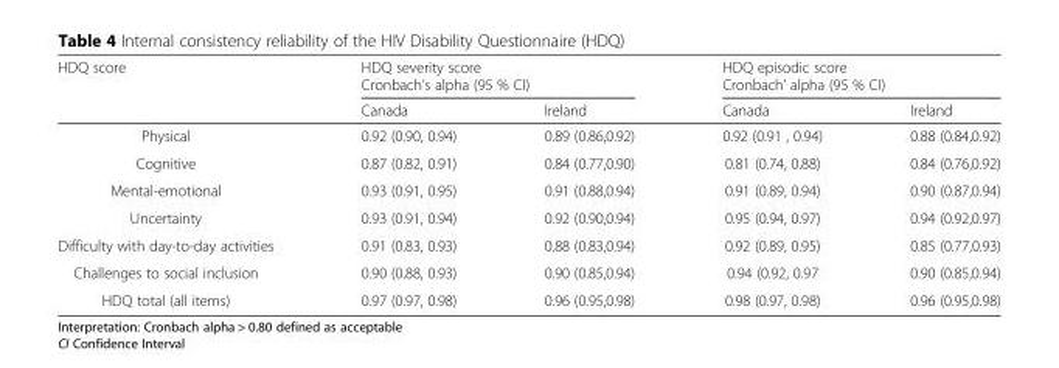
<table><thead><tr><td rowspan="3">HDQ score</td><td rowspan="2" colspan="2">HDQ severity score Cronbach’s alpha (95 % CI)</td><td rowspan="2" colspan="2">HDQ episodic score Cronbach’ alpha (95 % CI)</td></tr><tr></tr><tr><td>Canada</td><td>Ireland</td><td>Canada</td><td>Ireland</td></tr></thead><tbody><tr><td>Physical</td><td>0.92 (0.90, 0.94)</td><td>0.89 (0.86,0.92)</td><td>0.92 (0.91 , 0.94)</td><td>0.88 (0.84,0.92)</td></tr><tr><td>Cognitive</td><td>0.87 (0.82, 0.91)</td><td>0.84 (0.77,0.90)</td><td>0.81 (0.74, 0.88)</td><td>0.84 (0.76,0.92)</td></tr><tr><td>Mental-emotional</td><td>0.93 (0.91, 0.95)</td><td>0.91 (0.88,0.94)</td><td>0.91 (0.89, 0.94)</td><td>0.90 (0.87,0.94)</td></tr><tr><td>Uncertainty</td><td>0.93 (0.91, 0.94)</td><td>0.92 (0.90,0.94)</td><td>0.95 (0.94, 0.97)</td><td>0.94 (0.92,0.97)</td></tr><tr><td>Difficulty with day-to-day activities</td><td>0.91 (0.83, 0.93)</td><td>0.88 (0.83,0.94)</td><td>0.92 (0.89, 0.95)</td><td>0.85 (0.77,0.93)</td></tr><tr><td>Challenges to social inclusion</td><td>0.90 (0.88, 0.93)</td><td>0.90 (0.85,0.94)</td><td>0.94 (0.92, 0.97</td><td>0.90 (0.85,0.94)</td></tr><tr><td>HDQ total (all items)</td><td>0.97 (0.97, 0.98)</td><td>0.96 (0.95,0.98)</td><td>0.98 (0.97, 0.98)</td><td>0.96 (0.95,0.98)</td></tr></tbody></table>